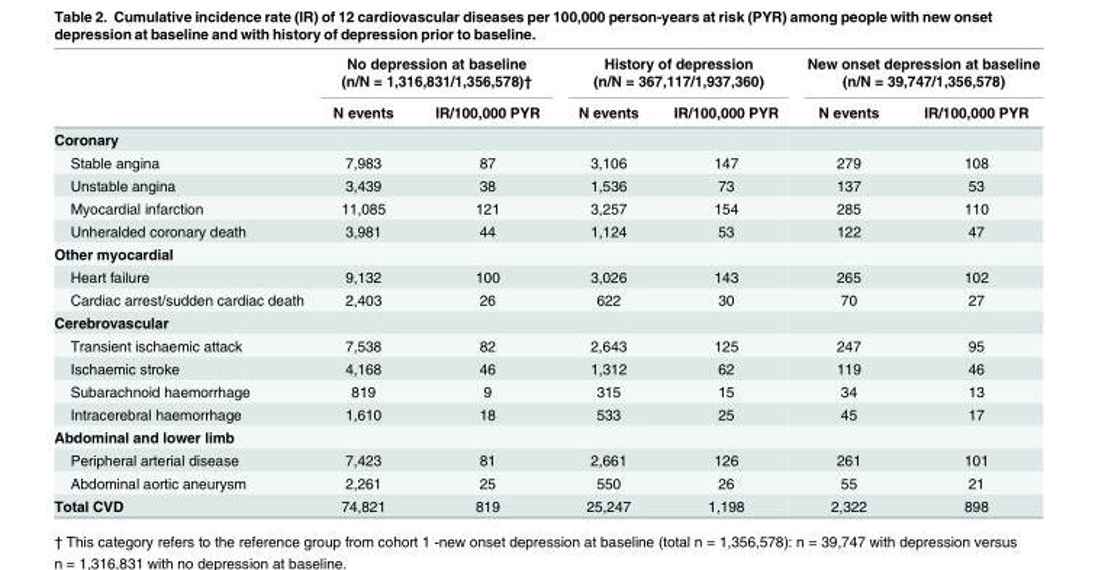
<table><thead><tr><td rowspan="2"></td><td colspan="2">No depression at baseline (n/N = 1,316,831/1,356,578)†</td><td colspan="2">History of depression (n/N = 367,117/1,937,360)</td><td colspan="2">New onset depression at baseline (n/N = 39,747/1,356,578)</td></tr><tr><td>N events</td><td>IR/100,000 PYR</td><td>N events</td><td>IR/100,000 PYR</td><td>N events</td><td>IR/100,000 PYR</td></tr></thead><tbody><tr><td colspan="7">Coronary</td></tr><tr><td>Stable angina</td><td>7,983</td><td>87</td><td>3,106</td><td>147</td><td>279</td><td>108</td></tr><tr><td>Unstable angina</td><td>3,439</td><td>38</td><td>1,536</td><td>73</td><td>137</td><td>53</td></tr><tr><td>Myocardial infarction</td><td>11,085</td><td>121</td><td>3,257</td><td>154</td><td>285</td><td>110</td></tr><tr><td>Unheralded coronary death</td><td>3,981</td><td>44</td><td>1,124</td><td>53</td><td>122</td><td>47</td></tr><tr><td colspan="7">Other myocardial</td></tr><tr><td>Heart failure</td><td>9,132</td><td>100</td><td>3,026</td><td>143</td><td>265</td><td>102</td></tr><tr><td>Cardiac arrest/sudden cardiac death</td><td>2,403</td><td>26</td><td>622</td><td>30</td><td>70</td><td>27</td></tr><tr><td colspan="7">Cerebrovascular</td></tr><tr><td>Transient ischaemic attack</td><td>7,538</td><td>82</td><td>2,643</td><td>125</td><td>247</td><td>95</td></tr><tr><td>Ischaemic stroke</td><td>4,168</td><td>46</td><td>1,312</td><td>62</td><td>119</td><td>46</td></tr><tr><td>Subarachnoid haemorrhage</td><td>819</td><td>9</td><td>315</td><td>15</td><td>34</td><td>13</td></tr><tr><td>Intracerebral haemorrhage</td><td>1,610</td><td>18</td><td>533</td><td>25</td><td>45</td><td>17</td></tr><tr><td colspan="7">Abdominal and lower limb</td></tr><tr><td>Peripheral arterial disease</td><td>7,423</td><td>81</td><td>2,661</td><td>126</td><td>261</td><td>101</td></tr><tr><td>Abdominal aortic aneurysm</td><td>2,261</td><td>25</td><td>550</td><td>26</td><td>55</td><td>21</td></tr><tr><td>Total CVD</td><td>74,821</td><td>819</td><td>25,247</td><td>1,198</td><td>2,322</td><td>898</td></tr></tbody></table>